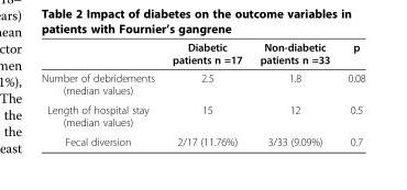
<table><thead><tr><td></td><td>Diabetic patients n =17</td><td>Non-diabetic patients n =33</td><td>p</td></tr></thead><tbody><tr><td>Number of debridements (median values)</td><td>2.5</td><td>1.8</td><td>0.08</td></tr><tr><td>Length of hospital stay (median values)</td><td>15</td><td>12</td><td>0.5</td></tr><tr><td>Fecal diversion</td><td>2/17 (11.76%)</td><td>3/33 (9.09%)</td><td>0.7</td></tr></tbody></table>